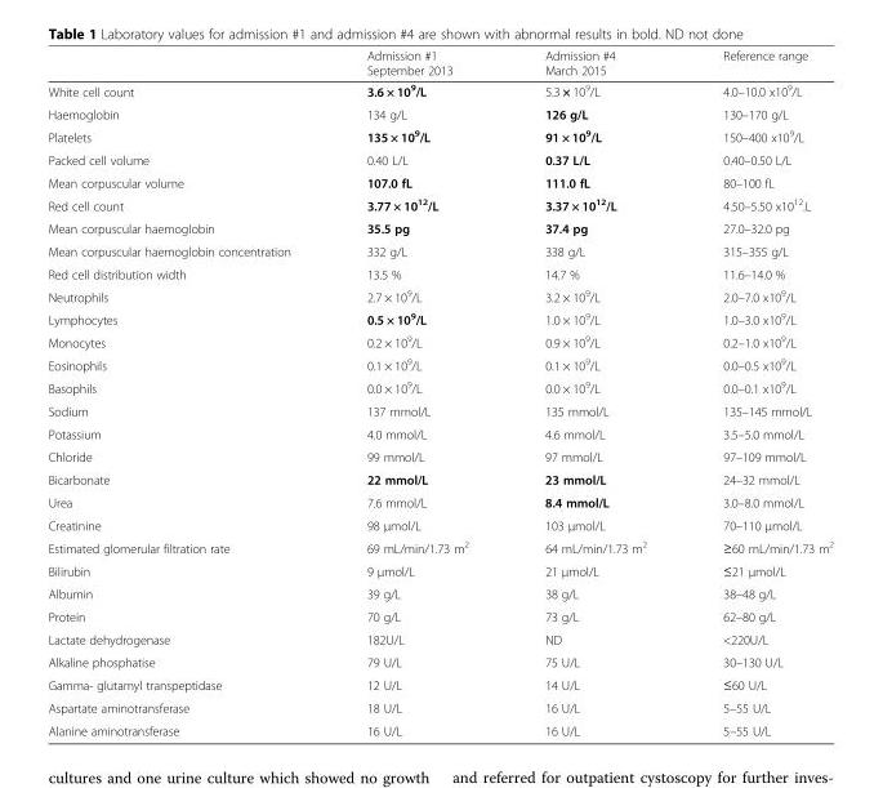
<table><thead><tr><td></td><td>Admission #1 September 2013</td><td>Admission #4 March 2015</td><td>Reference range</td></tr></thead><tbody><tr><td>White cell count</td><td>3.6 × 10<sup>9</sup>/L</td><td>5.3 × 10<sup>9</sup>/L</td><td>4.0–10.0 x10<sup>9</sup>/L</td></tr><tr><td>Haemoglobin</td><td>134 g/L</td><td>126 g/L</td><td>130–170 g/L</td></tr><tr><td>Platelets</td><td>135 × 10<sup>9</sup>/L</td><td>91 × 10<sup>9</sup>/L</td><td>150–400 x10<sup>9</sup>/L</td></tr><tr><td>Packed cell volume</td><td>0.40 L/L</td><td>0.37 L/L</td><td>0.40–0.50 L/L</td></tr><tr><td>Mean corpuscular volume</td><td>107.0 fL</td><td>111.0 fL</td><td>80–100 fL</td></tr><tr><td>Red cell count</td><td>3.77 × 10<sup>12</sup>/L</td><td>3.37 × 10<sup>12</sup>/L</td><td>4.50–5.50 x10<sup>12</sup>.L</td></tr><tr><td>Mean corpuscular haemoglobin</td><td>35.5 pg</td><td>37.4 pg</td><td>27.0–32.0 pg</td></tr><tr><td>Mean corpuscular haemoglobin concentration</td><td>332 g/L</td><td>338 g/L</td><td>315–355 g/L</td></tr><tr><td>Red cell distribution width</td><td>13.5 %</td><td>14.7 %</td><td>11.6–14.0 %</td></tr><tr><td>Neutrophils</td><td>2.7 × 10<sup>9</sup>/L</td><td>3.2 × 10<sup>9</sup>/L</td><td>2.0–7.0 x10<sup>9</sup>/L</td></tr><tr><td>Lymphocytes</td><td>0.5 × 10<sup>9</sup>/L</td><td>1.0 × 10<sup>9</sup>/L</td><td>1.0–3.0 x10<sup>9</sup>/L</td></tr><tr><td>Monocytes</td><td>0.2 × 10<sup>9</sup>/L</td><td>0.9 × 10<sup>9</sup>/L</td><td>0.2–1.0 x10<sup>9</sup>/L</td></tr><tr><td>Eosinophils</td><td>0.1 × 10<sup>9</sup>/L</td><td>0.1 × 10<sup>9</sup>/L</td><td>0.0–0.5 x10<sup>9</sup>/L</td></tr><tr><td>Basophils</td><td>0.0 × 10<sup>9</sup>/L</td><td>0.0 × 10<sup>9</sup>/L</td><td>0.0–0.1 x10<sup>9</sup>/L</td></tr><tr><td>Sodium</td><td>137 mmol/L</td><td>135 mmol/L</td><td>135–145 mmol/L</td></tr><tr><td>Potassium</td><td>4.0 mmol/L</td><td>4.6 mmol/L</td><td>3.5–5.0 mmol/L</td></tr><tr><td>Chloride</td><td>99 mmol/L</td><td>97 mmol/L</td><td>97–109 mmol/L</td></tr><tr><td>Bicarbonate</td><td>22 mmol/L</td><td>23 mmol/L</td><td>24–32 mmol/L</td></tr><tr><td>Urea</td><td>7.6 mmol/L</td><td>8.4 mmol/L</td><td>3.0–8.0 mmol/L</td></tr><tr><td>Creatinine</td><td>98 μmol/L</td><td>103 μmol/L</td><td>70–110 μmol/L</td></tr><tr><td>Estimated glomerular filtration rate</td><td>69 mL/min/1.73 m<sup>2</sup></td><td>64 mL/min/1.73 m<sup>2</sup></td><td>≥60 mL/min/1.73 m<sup>2</sup></td></tr><tr><td>Bilirubin</td><td>9 μmol/L</td><td>21 μmol/L</td><td>≤21 μmol/L</td></tr><tr><td>Albumin</td><td>39 g/L</td><td>38 g/L</td><td>38–48 g/L</td></tr><tr><td>Protein</td><td>70 g/L</td><td>73 g/L</td><td>62–80 g/L</td></tr><tr><td>Lactate dehydrogenase</td><td>182U/L</td><td>ND</td><td>&lt;220U/L</td></tr><tr><td>Alkaline phosphatise</td><td>79 U/L</td><td>75 U/L</td><td>30–130 U/L</td></tr><tr><td>Gamma- glutamyl transpeptidase</td><td>12 U/L</td><td>14 U/L</td><td>≤60 U/L</td></tr><tr><td>Aspartate aminotransferase</td><td>18 U/L</td><td>16 U/L</td><td>5–55 U/L</td></tr><tr><td>Alanine aminotransferase</td><td>16 U/L</td><td>16 U/L</td><td>5–55 U/L</td></tr></tbody></table>